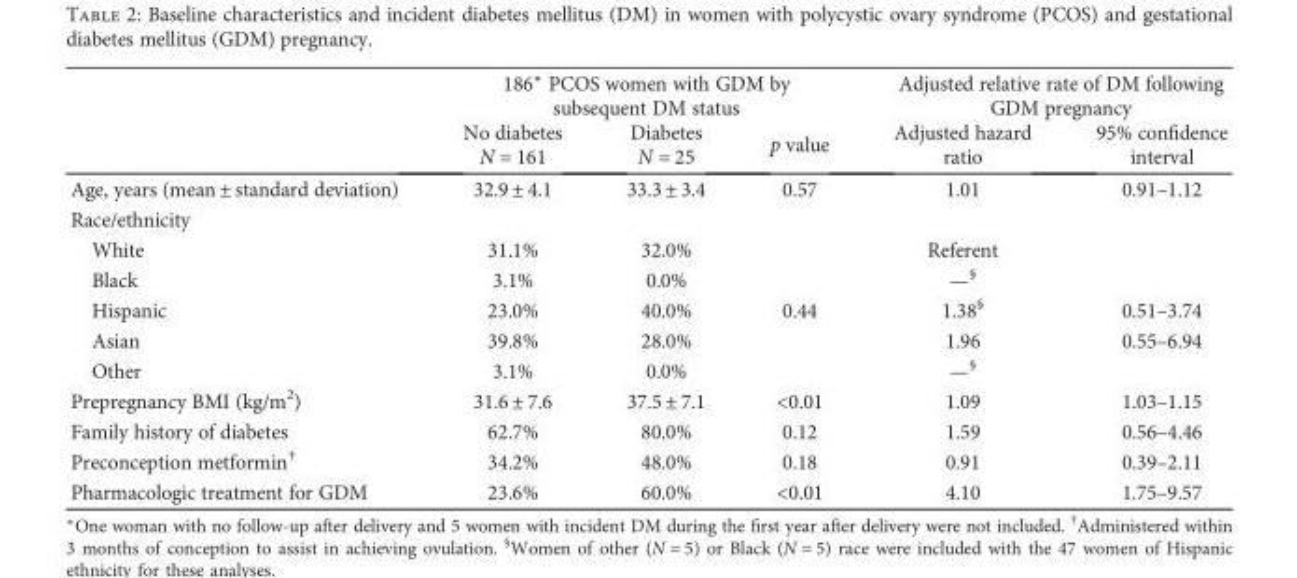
<table><thead><tr><td rowspan="2"></td><td colspan="3">186∗ PCOS women with GDM by subsequent DM status</td><td colspan="2">Adjusted relative rate of DM following GDM pregnancy</td></tr><tr><td>No diabetes N = 161</td><td>Diabetes N = 25</td><td>p value</td><td>Adjusted hazard ratio</td><td>95% confidence interval</td></tr></thead><tbody><tr><td>Age, years (mean ± standard deviation)</td><td>32.9 ± 4.1</td><td>33.3 ± 3.4</td><td>0.57</td><td>1.01</td><td>0.91–1.12</td></tr><tr><td colspan="6">Race/ethnicity</td></tr><tr><td>White</td><td>31.1%</td><td>32.0%</td><td rowspan="5">0.44</td><td>Referent</td><td></td></tr><tr><td>Black</td><td>3.1%</td><td>0.0%</td><td>—<sup>§</sup></td><td></td></tr><tr><td>Hispanic</td><td>23.0%</td><td>40.0%</td><td>1.38<sup>§</sup></td><td>0.51–3.74</td></tr><tr><td>Asian</td><td>39.8%</td><td>28.0%</td><td>1.96</td><td>0.55–6.94</td></tr><tr><td>Other</td><td>3.1%</td><td>0.0%</td><td>—<sup>§</sup></td><td></td></tr><tr><td>Prepregnancy BMI (kg/m<sup>2</sup>)</td><td>31.6 ± 7.6</td><td>37.5 ± 7.1</td><td>&lt;0.01</td><td>1.09</td><td>1.03–1.15</td></tr><tr><td>Family history of diabetes</td><td>62.7%</td><td>80.0%</td><td>0.12</td><td>1.59</td><td>0.56–4.46</td></tr><tr><td>Preconception metformin<sup>†</sup></td><td>34.2%</td><td>48.0%</td><td>0.18</td><td>0.91</td><td>0.39–2.11</td></tr><tr><td>Pharmacologic treatment for GDM</td><td>23.6%</td><td>60.0%</td><td>&lt;0.01</td><td>4.10</td><td>1.75–9.57</td></tr></tbody></table>